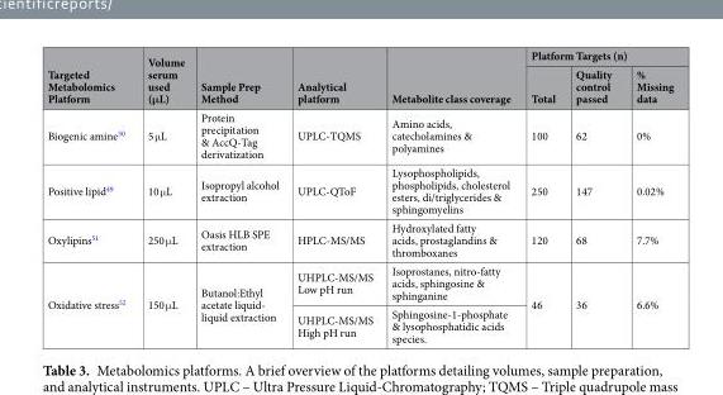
<table><thead><tr><td rowspan="2">Targeted Metabolomics Platform</td><td rowspan="2">Volume serum used (μL)</td><td rowspan="2">Sample Prep Method</td><td rowspan="2">Analytical platform</td><td rowspan="2">Metabolite class coverage</td><td colspan="3">Platform Targets (n)</td></tr><tr><td>Total</td><td>Quality control passed</td><td>% Missing data</td></tr></thead><tbody><tr><td>Biogenic amine<sup>50</sup></td><td>5 μL</td><td>Protein precipitation &amp; AccQ-Tag derivatization</td><td>UPLC-TQMS</td><td>Amino acids, catecholamines &amp; polyamines</td><td>100</td><td>62</td><td>0%</td></tr><tr><td>Positive lipid<sup>49</sup></td><td>10 μL</td><td>Isopropyl alcohol extraction</td><td>UPLC-QToF</td><td>Lysophospholipids, phospholipids, cholesterol esters, di/triglycerides &amp; sphingomyelins</td><td>250</td><td>147</td><td>0.02%</td></tr><tr><td>Oxylipins<sup>51</sup></td><td>250 μL</td><td>Oasis HLB SPE extraction</td><td>HPLC-MS/MS</td><td>Hydroxylated fatty acids, prostaglandins &amp; thromboxanes</td><td>120</td><td>68</td><td>7.7%</td></tr><tr><td rowspan="2">Oxidative stress<sup>52</sup></td><td rowspan="2">150 μL</td><td rowspan="2">Butanol:Ethyl acetate liquid- liquid extraction</td><td>UHPLC-MS/MS Low pH run</td><td>Isoprostanes, nitro-fatty acids, sphingosine &amp; sphinganine</td><td rowspan="2">46</td><td rowspan="2">36</td><td rowspan="2">6.6%</td></tr><tr><td>UHPLC-MS/MS High pH run</td><td>Sphingosine-1-phosphate &amp; lysophosphatidic acids species.</td></tr></tbody></table>